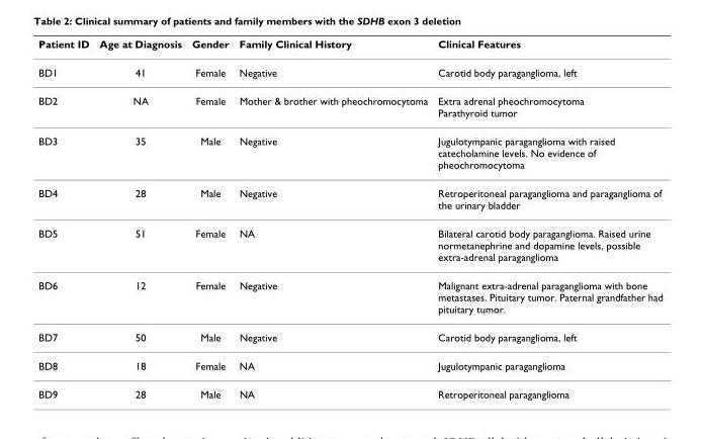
<table><thead><tr><td>Patient ID</td><td>Age at Diagnosis</td><td>Gender</td><td>Family Clinical History</td><td>Clinical Features</td></tr></thead><tbody><tr><td>BD1</td><td>41</td><td>Female</td><td>Negative</td><td>Carotid body paraganglioma, left</td></tr><tr><td>BD2</td><td>NA</td><td>Female</td><td>Mother &amp; brother with pheochromocytoma</td><td>Extra adrenal pheochromocytoma Parathyroid tumor</td></tr><tr><td>BD3</td><td>35</td><td>Male</td><td>Negative</td><td>Jugulotympanic paraganglioma with raised catecholamine levels. No evidence of pheochromocytoma</td></tr><tr><td>BD4</td><td>28</td><td>Male</td><td>Negative</td><td>Retroperitoneal paraganglioma and paraganglioma of the urinary bladder</td></tr><tr><td>BD5</td><td>51</td><td>Female</td><td>NA</td><td>Bilateral carotid body paraganglioma. Raised urine normetanephrine and dopamine levels, possible extra-adrenal paraganglioma</td></tr><tr><td>BD6</td><td>12</td><td>Female</td><td>Negative</td><td>Malignant extra-adrenal paraganglioma with bone metastases. Pituitary tumor. Paternal grandfather had pituitary tumor.</td></tr><tr><td>BD7</td><td>50</td><td>Male</td><td>Negative</td><td>Carotid body paraganglioma, left</td></tr><tr><td>BD8</td><td>18</td><td>Female</td><td>NA</td><td>Jugulotympanic paraganglioma</td></tr><tr><td>BD9</td><td>28</td><td>Male</td><td>NA</td><td>Retroperitoneal paraganglioma</td></tr></tbody></table>